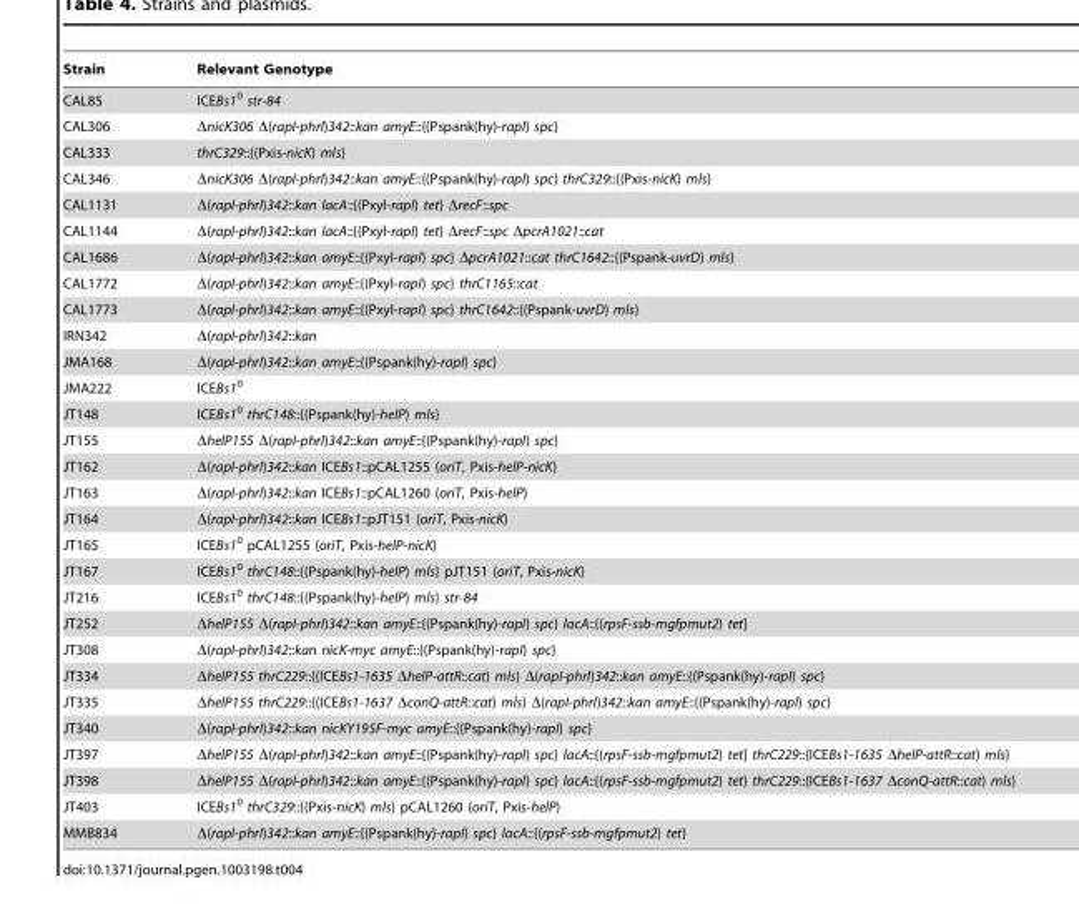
<table><thead><tr><td>Strain</td><td>Relevant Genotype</td></tr></thead><tbody><tr><td>CAL85</td><td>ICEBs1<sup>0</sup> str-84</td></tr><tr><td>CAL306</td><td>ΔnicK306 Δ(rapI-phrI)342::kan amyE::{(Pspank(hy)-rapI) spc}</td></tr><tr><td>CAL333</td><td>thrC329::{(Pxis-nicK) mls}</td></tr><tr><td>CAL346</td><td>ΔnicK306 Δ(rapI-phrI)342::kan amyE::{(Pspank(hy)-rapI) spc} thrC329::{(Pxis-nicK) mls}</td></tr><tr><td>CAL1131</td><td>Δ(rapI-phrI)342::kan lacA::{(Pxyl-rapI) tet} ΔrecF::spc</td></tr><tr><td>CAL1144</td><td>Δ(rapI-phrI)342::kan lacA::{(Pxyl-rapI) tet} ΔrecF::spc ΔpcrA1021::cat</td></tr><tr><td>CAL1686</td><td>Δ(rapI-phrI)342::kan amyE::{(Pxyl-rapI) spc} ΔpcrA1021::cat thrC1642::{(Pspank-uvrD) mls}</td></tr><tr><td>CAL1772</td><td>Δ(rapI-phrI)342::kan amyE::{(Pxyl-rapI) spc} thrC1165::cat</td></tr><tr><td>CAL1773</td><td>Δ(rapI-phrI)342::kan amyE::{(Pxyl-rapI) spc} thrC1642::{(Pspank-uvrD) mls}</td></tr><tr><td>IRN342</td><td>Δ(rapI-phrI)342::kan</td></tr><tr><td>JMA168</td><td>Δ(rapI-phrI)342::kan amyE::{(Pspank(hy)-rapI) spc}</td></tr><tr><td>JMA222</td><td>ICEBs1<sup>0</sup></td></tr><tr><td>JT148</td><td>ICEBs1<sup>0</sup> thrC148::{(Pspank(hy)-helP) mls}</td></tr><tr><td>JT155</td><td>ΔhelP155 Δ(rapI-phrI)342::kan amyE::{(Pspank(hy)-rapI) spc}</td></tr><tr><td>JT162</td><td>Δ(rapI-phrI)342::kan ICEBs1::pCAL1255 (oriT, Pxis-helP-nicK)</td></tr><tr><td>JT163</td><td>Δ(rapI-phrI)342::kan ICEBs1::pCAL1260 (oriT, Pxis-helP)</td></tr><tr><td>JT164</td><td>Δ(rapI-phrI)342::kan ICEBs1::pJT151 (oriT, Pxis-nicK)</td></tr><tr><td>JT165</td><td>ICEBs1<sup>0</sup> pCAL1255 (oriT, Pxis-helP-nicK)</td></tr><tr><td>JT167</td><td>ICEBs1<sup>0</sup> thrC148::{(Pspank(hy)-helP) mls} pJT151 (oriT, Pxis-nicK)</td></tr><tr><td>JT216</td><td>ICEBs1<sup>0</sup> thrC148::{(Pspank(hy)-helP) mls} str-84</td></tr><tr><td>JT252</td><td>ΔhelP155 Δ(rapI-phrI)342::kan amyE::{(Pspank(hy)-rapI) spc} lacA::{(rpsF-ssb-mgfpmut2) tet]</td></tr><tr><td>JT308</td><td>Δ(rapI-phrI)342::kan nicK-myc amyE::{(Pspank(hy)-rapI) spc}</td></tr><tr><td>JT334</td><td>ΔhelP155 thrC229::{(ICEBs1-1635 ΔhelP-attR::cat) mls} Δ(rapI-phrI)342::kan amyE::{(Pspank(hy)-rapI) spc}</td></tr><tr><td>JT335</td><td>ΔhelP155 thrC229::{(ICEBs1-1637 ΔconQ-attR::cat) mls} Δ(rapI-phrI)342::kan amyE::{(Pspank(hy)-rapI) spc}</td></tr><tr><td>JT340</td><td>Δ(rapI-phrI)342::kan nicKY195F-myc amyE::{(Pspank(hy)-rapI) spc}</td></tr><tr><td>JT397</td><td>ΔhelP155 Δ(rapI-phrI)342::kan amyE::{(Pspank(hy)-rapI) spc} lacA::{(rpsF-ssb-mgfpmut2) tet] thrC229::{ICEBs1-1635 ΔhelP-attR::cat) mls}</td></tr><tr><td>JT398</td><td>ΔhelP155 Δ(rapI-phrI)342::kan amyE::{(Pspank(hy)-rapI) spc} lacA::{(rpsF-ssb-mgfpmut2) tet} thrC229::{ICEBs1-1637 ΔconQ-attR::cat) mls}</td></tr><tr><td>JT403</td><td>ICEBs1<sup>0</sup> thrC329::{(Pxis-nicK) mls} pCAL1260 (oriT, Pxis-helP)</td></tr><tr><td>MMB834</td><td>Δ(rapI-phrI)342::kan amyE::{(Pspank(hy)-rapI) spc} lacA::{(rpsF-ssb-mgfpmut2) tet}</td></tr></tbody></table>